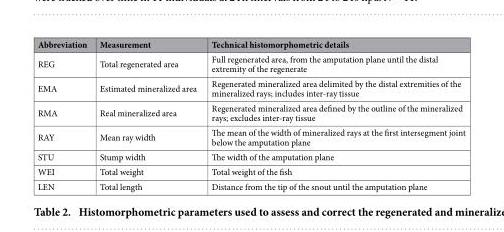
<table><thead><tr><td>Abbreviation</td><td>Measurement</td><td>Technical histomorphometric details</td></tr></thead><tbody><tr><td>REG</td><td>Total regenerated area</td><td>Full regenerated area, from the amputation plane until the distal extremity of the regenerate</td></tr><tr><td>EMA</td><td>Estimated mineralized area</td><td>Regenerated mineralized area delimited by the distal extremities of the mineralized rays; includes inter-ray tissue</td></tr><tr><td>RMA</td><td>Real mineralized area</td><td>Regenerated mineralized area defined by the outline of the mineralized rays; excludes inter-ray tissue</td></tr><tr><td>RAY</td><td>Mean ray width</td><td>The mean of the width of mineralized rays at the first intersegment joint below the amputation plane</td></tr><tr><td>STU</td><td>Stump width</td><td>The width of the amputation plane</td></tr><tr><td>WEI</td><td>Total weight</td><td>Total weight of the fish</td></tr><tr><td>LEN</td><td>Total length</td><td>Distance from the tip of the snout until the amputation plane</td></tr></tbody></table>